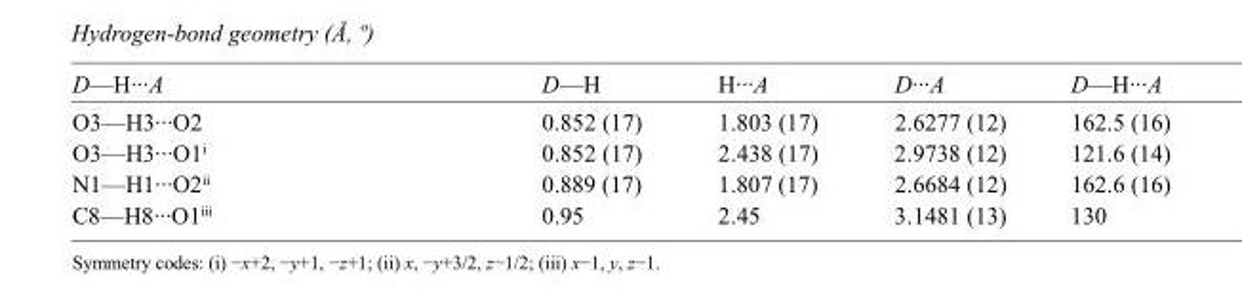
<table><tbody><tr><td>D—H···A</td><td>D—H</td><td>H···A</td><td>D···A</td><td>D—H···A</td></tr><tr><td>O3—H3···O2</td><td>0.852 (17)</td><td>1.803 (17)</td><td>2.6277 (12)</td><td>162.5 (16)</td></tr><tr><td>O3—H3···O1<sup>i</sup></td><td>0.852 (17)</td><td>2.438 (17)</td><td>2.9738 (12)</td><td>121.6 (14)</td></tr><tr><td>N1—H1···O2<sup>ii</sup></td><td>0.889 (17)</td><td>1.807 (17)</td><td>2.6684 (12)</td><td>162.6 (16)</td></tr><tr><td>C8—H8···O1<sup>iii</sup></td><td>0.95</td><td>2.45</td><td>3.1481 (13)</td><td>130</td></tr></tbody></table>